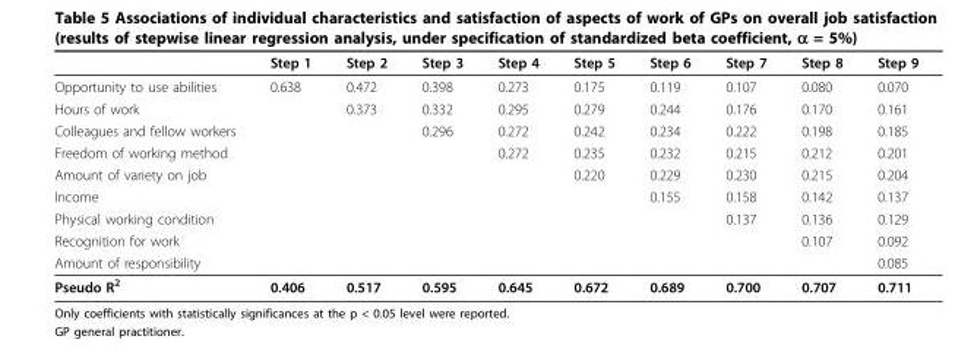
<table><thead><tr><td></td><td>Step 1</td><td>Step 2</td><td>Step 3</td><td>Step 4</td><td>Step 5</td><td>Step 6</td><td>Step 7</td><td>Step 8</td><td>Step 9</td></tr></thead><tbody><tr><td>Opportunity to use abilities</td><td>0.638</td><td>0.472</td><td>0.398</td><td>0.273</td><td>0.175</td><td>0.119</td><td>0.107</td><td>0.080</td><td>0.070</td></tr><tr><td>Hours of work</td><td></td><td>0.373</td><td>0.332</td><td>0.295</td><td>0.279</td><td>0.244</td><td>0.176</td><td>0.170</td><td>0.161</td></tr><tr><td>Colleagues and fellow workers</td><td></td><td></td><td>0.296</td><td>0.272</td><td>0.242</td><td>0.234</td><td>0.222</td><td>0.198</td><td>0.185</td></tr><tr><td>Freedom of working method</td><td></td><td></td><td></td><td>0.272</td><td>0.235</td><td>0.232</td><td>0.215</td><td>0.212</td><td>0.201</td></tr><tr><td>Amount of variety on job</td><td></td><td></td><td></td><td></td><td>0.220</td><td>0.229</td><td>0.230</td><td>0.215</td><td>0.204</td></tr><tr><td>Income</td><td></td><td></td><td></td><td></td><td></td><td>0.155</td><td>0.158</td><td>0.142</td><td>0.137</td></tr><tr><td>Physical working condition</td><td></td><td></td><td></td><td></td><td></td><td></td><td>0.137</td><td>0.136</td><td>0.129</td></tr><tr><td>Recognition for work</td><td></td><td></td><td></td><td></td><td></td><td></td><td></td><td>0.107</td><td>0.092</td></tr><tr><td>Amount of responsibility</td><td></td><td></td><td></td><td></td><td></td><td></td><td></td><td></td><td>0.085</td></tr><tr><td>Pseudo R<sup>2</sup></td><td>0.406</td><td>0.517</td><td>0.595</td><td>0.645</td><td>0.672</td><td>0.689</td><td>0.700</td><td>0.707</td><td>0.711</td></tr></tbody></table>